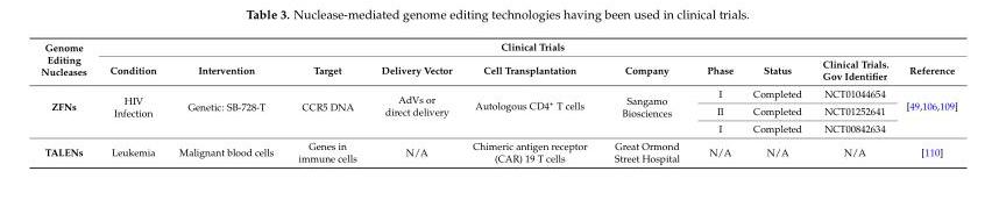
<table><thead><tr><td rowspan="2">Genome Editing Nucleases</td><td colspan="10">Clinical Trials</td></tr><tr><td>Condition</td><td>Intervention</td><td>Target</td><td>Delivery Vector</td><td>Cell Transplantation</td><td>Company</td><td>Phase</td><td>Status</td><td>Clinical Trials. Gov Identifier</td><td>Reference</td></tr></thead><tbody><tr><td rowspan="3">ZFNs</td><td rowspan="3">HIV Infection</td><td rowspan="3">Genetic: SB-728-T</td><td rowspan="3">CCR5 DNA</td><td rowspan="3">AdVs or direct delivery</td><td rowspan="3">Autologous CD4<sup>+</sup> T cells</td><td rowspan="3">Sangamo Biosciences</td><td>I</td><td>Completed</td><td>NCT01044654</td><td rowspan="3">[49,106,109]</td></tr><tr><td>II</td><td>Completed</td><td>NCT01252641</td></tr><tr><td>I</td><td>Completed</td><td>NCT00842634</td></tr><tr><td>TALENs</td><td>Leukemia</td><td>Malignant blood cells</td><td>Genes in immune cells</td><td>N/A</td><td>Chimeric antigen receptor (CAR) 19 T cells</td><td>Great Ormond Street Hospital</td><td>N/A</td><td>N/A</td><td>N/A</td><td>[110]</td></tr></tbody></table>